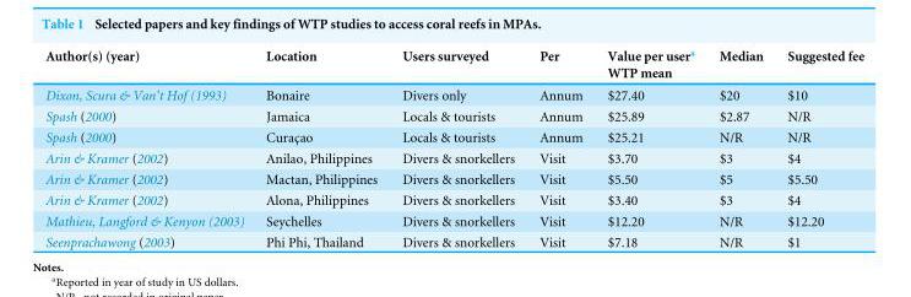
<table><thead><tr><td>Author(s) (year)</td><td>Location</td><td>Users surveyed</td><td>Per</td><td>Value per user<sup>a</sup> WTP mean</td><td>Median</td><td>Suggested fee</td></tr></thead><tbody><tr><td>Dixon, Scura &amp; Van’t Hof (1993)</td><td>Bonaire</td><td>Divers only</td><td>Annum</td><td>$27.40</td><td>$20</td><td>$10</td></tr><tr><td>Spash (2000)</td><td>Jamaica</td><td>Locals &amp; tourists</td><td>Annum</td><td>$25.89</td><td>$2.87</td><td>N/R</td></tr><tr><td>Spash (2000)</td><td>Cura¸cao</td><td>Locals &amp; tourists</td><td>Annum</td><td>$25.21</td><td>N/R</td><td>N/R</td></tr><tr><td>Arin &amp; Kramer (2002)</td><td>Anilao, Philippines</td><td>Divers &amp; snorkellers</td><td>Visit</td><td>$3.70</td><td>$3</td><td>$4</td></tr><tr><td>Arin &amp; Kramer (2002)</td><td>Mactan, Philippines</td><td>Divers &amp; snorkellers</td><td>Visit</td><td>$5.50</td><td>$5</td><td>$5.50</td></tr><tr><td>Arin &amp; Kramer (2002)</td><td>Alona, Philippines</td><td>Divers &amp; snorkellers</td><td>Visit</td><td>$3.40</td><td>$3</td><td>$4</td></tr><tr><td>Mathieu, Langford &amp; Kenyon (2003)</td><td>Seychelles</td><td>Divers &amp; snorkellers</td><td>Visit</td><td>$12.20</td><td>N/R</td><td>$12.20</td></tr><tr><td>Seenprachawong (2003)</td><td>Phi Phi, Thailand</td><td>Divers &amp; snorkellers</td><td>Visit</td><td>$7.18</td><td>N/R</td><td>$1</td></tr></tbody></table>